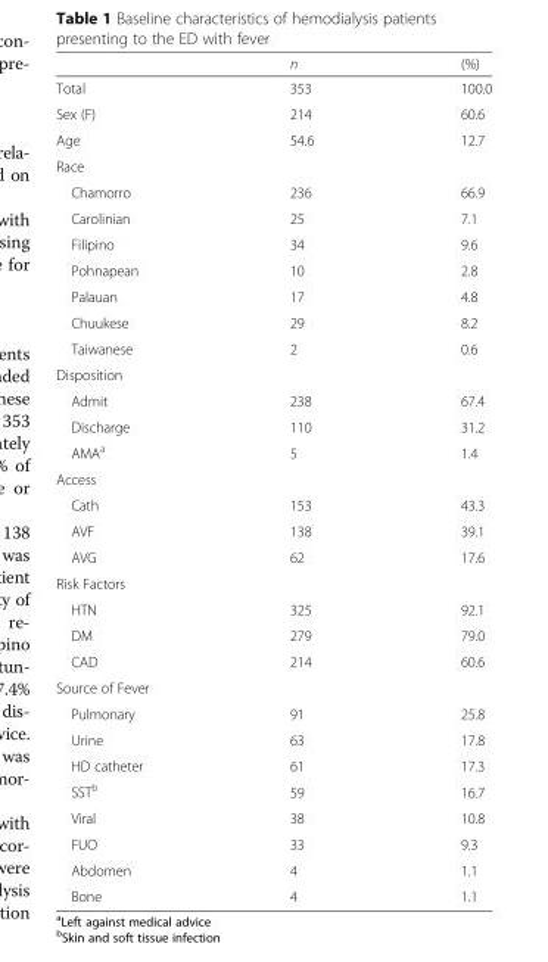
<table><thead><tr><td></td><td>n</td><td>(%)</td></tr></thead><tbody><tr><td>Total</td><td>353</td><td>100.0</td></tr><tr><td>Sex (F)</td><td>214</td><td>60.6</td></tr><tr><td>Age</td><td>54.6</td><td>12.7</td></tr><tr><td colspan="3">Race</td></tr><tr><td>Chamorro</td><td>236</td><td>66.9</td></tr><tr><td>Carolinian</td><td>25</td><td>7.1</td></tr><tr><td>Filipino</td><td>34</td><td>9.6</td></tr><tr><td>Pohnapean</td><td>10</td><td>2.8</td></tr><tr><td>Palauan</td><td>17</td><td>4.8</td></tr><tr><td>Chuukese</td><td>29</td><td>8.2</td></tr><tr><td>Taiwanese</td><td>2</td><td>0.6</td></tr><tr><td colspan="3">Disposition</td></tr><tr><td>Admit</td><td>238</td><td>67.4</td></tr><tr><td>Discharge</td><td>110</td><td>31.2</td></tr><tr><td>AMA<sup>a</sup></td><td>5</td><td>1.4</td></tr><tr><td colspan="3">Access</td></tr><tr><td>Cath</td><td>153</td><td>43.3</td></tr><tr><td>AVF</td><td>138</td><td>39.1</td></tr><tr><td>AVG</td><td>62</td><td>17.6</td></tr><tr><td colspan="3">Risk Factors</td></tr><tr><td>HTN</td><td>325</td><td>92.1</td></tr><tr><td>DM</td><td>279</td><td>79.0</td></tr><tr><td>CAD</td><td>214</td><td>60.6</td></tr><tr><td colspan="3">Source of Fever</td></tr><tr><td>Pulmonary</td><td>91</td><td>25.8</td></tr><tr><td>Urine</td><td>63</td><td>17.8</td></tr><tr><td>HD catheter</td><td>61</td><td>17.3</td></tr><tr><td>SST<sup>b</sup></td><td>59</td><td>16.7</td></tr><tr><td>Viral</td><td>38</td><td>10.8</td></tr><tr><td>FUO</td><td>33</td><td>9.3</td></tr><tr><td>Abdomen</td><td>4</td><td>1.1</td></tr><tr><td>Bone</td><td>4</td><td>1.1</td></tr></tbody></table>